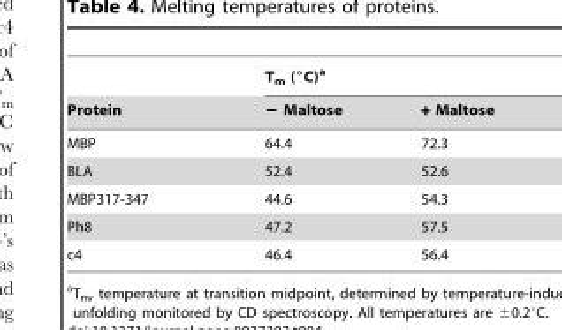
<table><thead><tr><td rowspan="2">Protein</td><td colspan="2">T<sub>m</sub> (°C)<sup>a</sup></td></tr><tr><td>− Maltose</td><td>+ Maltose</td></tr></thead><tbody><tr><td>MBP</td><td>64.4</td><td>72.3</td></tr><tr><td>BLA</td><td>52.4</td><td>52.6</td></tr><tr><td>MBP317-347</td><td>44.6</td><td>54.3</td></tr><tr><td>Ph8</td><td>47.2</td><td>57.5</td></tr><tr><td>c4</td><td>46.4</td><td>56.4</td></tr></tbody></table>